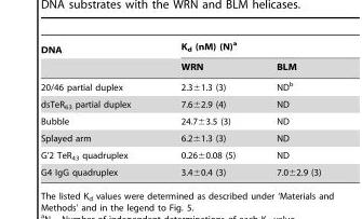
<table><thead><tr><td rowspan="2">DNA</td><td colspan="2">K<sub>d</sub> (nM) (N)<sup>a</sup></td></tr><tr><td>WRN</td><td>BLM</td></tr></thead><tbody><tr><td>20/46 partial duplex</td><td>2.3±1.3 (3)</td><td>ND<sup>b</sup></td></tr><tr><td>dsTeR<sub>63</sub> partial duplex</td><td>7.6±2.9 (4)</td><td>ND</td></tr><tr><td>Bubble</td><td>24.7±3.5 (3)</td><td>ND</td></tr><tr><td>Splayed arm</td><td>6.2±1.3 (3)</td><td>ND</td></tr><tr><td>G’2 TeR<sub>43</sub> quadruplex</td><td>0.26±0.08 (5)</td><td>ND</td></tr><tr><td>G4 IgG quadruplex</td><td>3.4±0.4 (3)</td><td>7.0±2.9 (3)</td></tr></tbody></table>